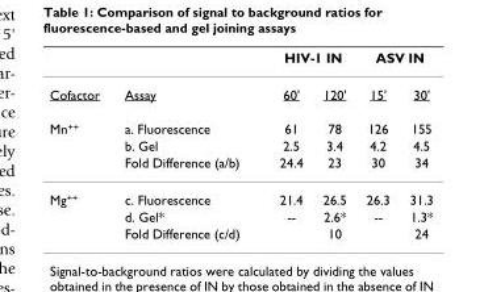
<table><thead><tr><td rowspan="2">Cofactor</td><td rowspan="2">Assay</td><td colspan="2">HIV-1 IN</td><td colspan="2">ASV IN</td></tr><tr><td>60&#x27;</td><td>120&#x27;</td><td>15&#x27;</td><td>30&#x27;</td></tr></thead><tbody><tr><td rowspan="3">Mn<sup>++</sup></td><td>a. Fluorescence</td><td>61</td><td>78</td><td>126</td><td>155</td></tr><tr><td>b. Gel</td><td>2.5</td><td>3.4</td><td>4.2</td><td>4.5</td></tr><tr><td>Fold Difference (a/b)</td><td>24.4</td><td>23</td><td>30</td><td>34</td></tr><tr><td rowspan="3">Mg<sup>++</sup></td><td>c. Fluorescence</td><td>21.4</td><td>26.5</td><td>26.3</td><td>31.3</td></tr><tr><td>d. Gel*</td><td>--</td><td>2.6*</td><td>--</td><td>1.3*</td></tr><tr><td>Fold Difference (c/d)</td><td></td><td>10</td><td></td><td>24</td></tr></tbody></table>